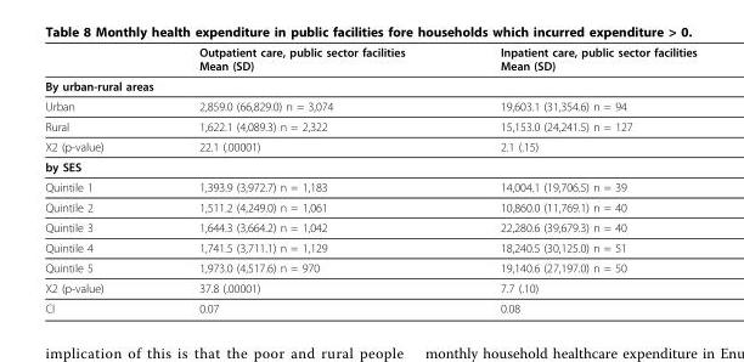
<table><thead><tr><td></td><td>Outpatient care, public sector facilities Mean (SD)</td><td>Inpatient care, public sector facilities Mean (SD)</td></tr></thead><tbody><tr><td colspan="3">By urban-rural areas</td></tr><tr><td>Urban</td><td>2,859.0 (66,829.0) n = 3,074</td><td>19,603.1 (31,354.6) n = 94</td></tr><tr><td>Rural</td><td>1,622.1 (4,089.3) n = 2,322</td><td>15,153.0 (24,241.5) n = 127</td></tr><tr><td>X2 (p-value)</td><td>22.1 (.00001)</td><td>2.1 (.15)</td></tr><tr><td colspan="3">by SES</td></tr><tr><td>Quintile 1</td><td>1,393.9 (3,972.7) n = 1,183</td><td>14,004.1 (19,706.5) n = 39</td></tr><tr><td>Quintile 2</td><td>1,511.2 (4,249.0) n = 1,061</td><td>10,860.0 (11,769.1) n = 40</td></tr><tr><td>Quintile 3</td><td>1,644.3 (3,664.2) n = 1,042</td><td>22,280.6 (39,679.3) n = 40</td></tr><tr><td>Quintile 4</td><td>1,741.5 (3,711.1) n = 1,129</td><td>18,240.5 (30,125.0) n = 51</td></tr><tr><td>Quintile 5</td><td>1,973.0 (4,517.6) n = 970</td><td>19,140.6 (27,197.0) n = 50</td></tr><tr><td>X2 (p-value)</td><td>37.8 (.00001)</td><td>7.7 (.10)</td></tr><tr><td>CI</td><td>0.07</td><td>0.08</td></tr></tbody></table>